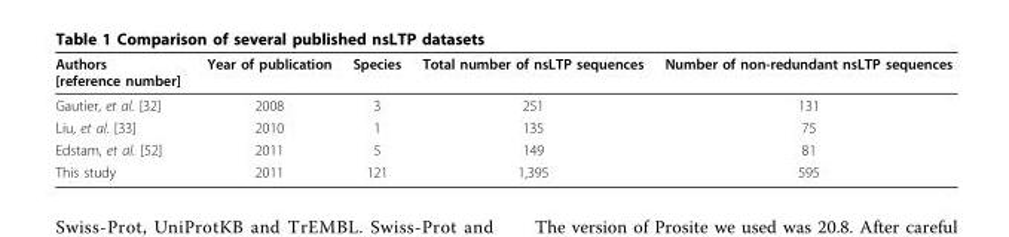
<table><thead><tr><td>Authors [reference number]</td><td>Year of publication</td><td>Species</td><td>Total number of nsLTP sequences</td><td>Number of non-redundant nsLTP sequences</td></tr></thead><tbody><tr><td>Gautier, et al. [32]</td><td>2008</td><td>3</td><td>251</td><td>131</td></tr><tr><td>Liu, et al. [33]</td><td>2010</td><td>1</td><td>135</td><td>75</td></tr><tr><td>Edstam, et al. [52]</td><td>2011</td><td>5</td><td>149</td><td>81</td></tr><tr><td>This study</td><td>2011</td><td>121</td><td>1,395</td><td>595</td></tr></tbody></table>